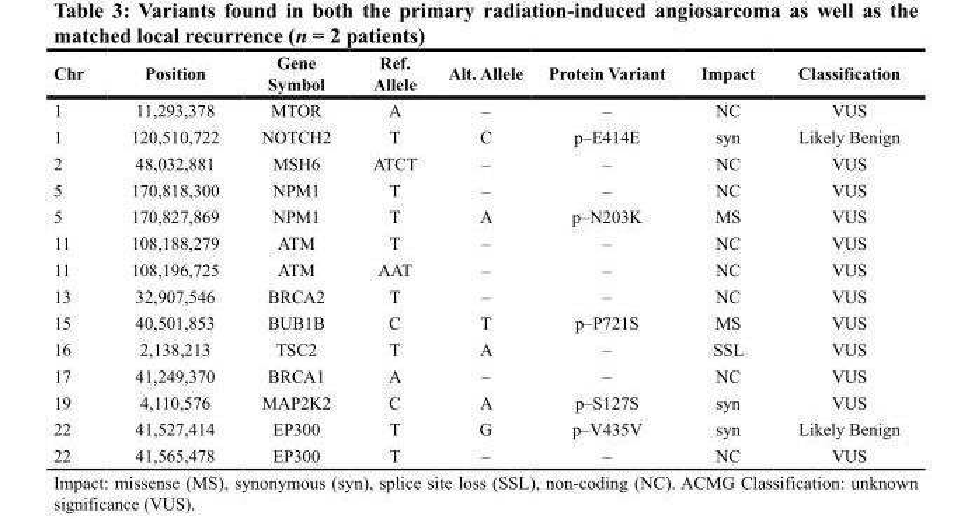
<table><thead><tr><td>Chr</td><td>Position</td><td>Gene Symbol</td><td>Ref. Allele</td><td>Alt. Allele</td><td>Protein Variant</td><td>Impact</td><td>Classification</td></tr></thead><tbody><tr><td>1</td><td>11,293,378</td><td>MTOR</td><td>A</td><td>–</td><td>–</td><td>NC</td><td>VUS</td></tr><tr><td>1</td><td>120,510,722</td><td>NOTCH2</td><td>T</td><td>C</td><td>p–E414E</td><td>syn</td><td>Likely Benign</td></tr><tr><td>2</td><td>48,032,881</td><td>MSH6</td><td>ATCT</td><td>–</td><td>–</td><td>NC</td><td>VUS</td></tr><tr><td>5</td><td>170,818,300</td><td>NPM1</td><td>T</td><td>–</td><td>–</td><td>NC</td><td>VUS</td></tr><tr><td>5</td><td>170,827,869</td><td>NPM1</td><td>T</td><td>A</td><td>p–N203K</td><td>MS</td><td>VUS</td></tr><tr><td>11</td><td>108,188,279</td><td>ATM</td><td>T</td><td>–</td><td>–</td><td>NC</td><td>VUS</td></tr><tr><td>11</td><td>108,196,725</td><td>ATM</td><td>AAT</td><td>–</td><td>–</td><td>NC</td><td>VUS</td></tr><tr><td>13</td><td>32,907,546</td><td>BRCA2</td><td>T</td><td>–</td><td>–</td><td>NC</td><td>VUS</td></tr><tr><td>15</td><td>40,501,853</td><td>BUB1B</td><td>C</td><td>T</td><td>p–P721S</td><td>MS</td><td>VUS</td></tr><tr><td>16</td><td>2,138,213</td><td>TSC2</td><td>T</td><td>A</td><td>–</td><td>SSL</td><td>VUS</td></tr><tr><td>17</td><td>41,249,370</td><td>BRCA1</td><td>A</td><td>–</td><td>–</td><td>NC</td><td>VUS</td></tr><tr><td>19</td><td>4,110,576</td><td>MAP2K2</td><td>C</td><td>A</td><td>p–S127S</td><td>syn</td><td>VUS</td></tr><tr><td>22</td><td>41,527,414</td><td>EP300</td><td>T</td><td>G</td><td>p–V435V</td><td>syn</td><td>Likely Benign</td></tr><tr><td>22</td><td>41,565,478</td><td>EP300</td><td>T</td><td>–</td><td>–</td><td>NC</td><td>VUS</td></tr></tbody></table>